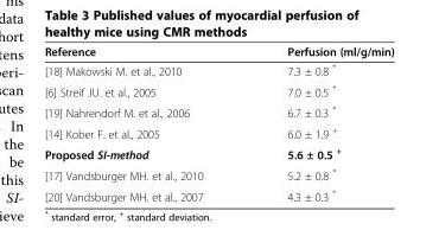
<table><thead><tr><td>Reference</td><td>Perfusion (ml/g/min)</td></tr></thead><tbody><tr><td>[18] Makowski M. et al., 2010</td><td>7.3 ± 0.8 *</td></tr><tr><td>[6] Streif JU. et al., 2005</td><td>7.0 ± 0.5 *</td></tr><tr><td>[19] Nahrendorf M. et al., 2006</td><td>6.7 ± 0.3 *</td></tr><tr><td>[14] Kober F. et al., 2005</td><td>6.0 ± 1.9 <sup>+</sup></td></tr><tr><td>Proposed SI-method</td><td>5.6 ± 0.5 <sup>+</sup></td></tr><tr><td>[17] Vandsburger MH. et al., 2010</td><td>5.2 ± 0.8 *</td></tr><tr><td>[20] Vandsburger MH. et al., 2007</td><td>4.3 ± 0.3 *</td></tr></tbody></table>